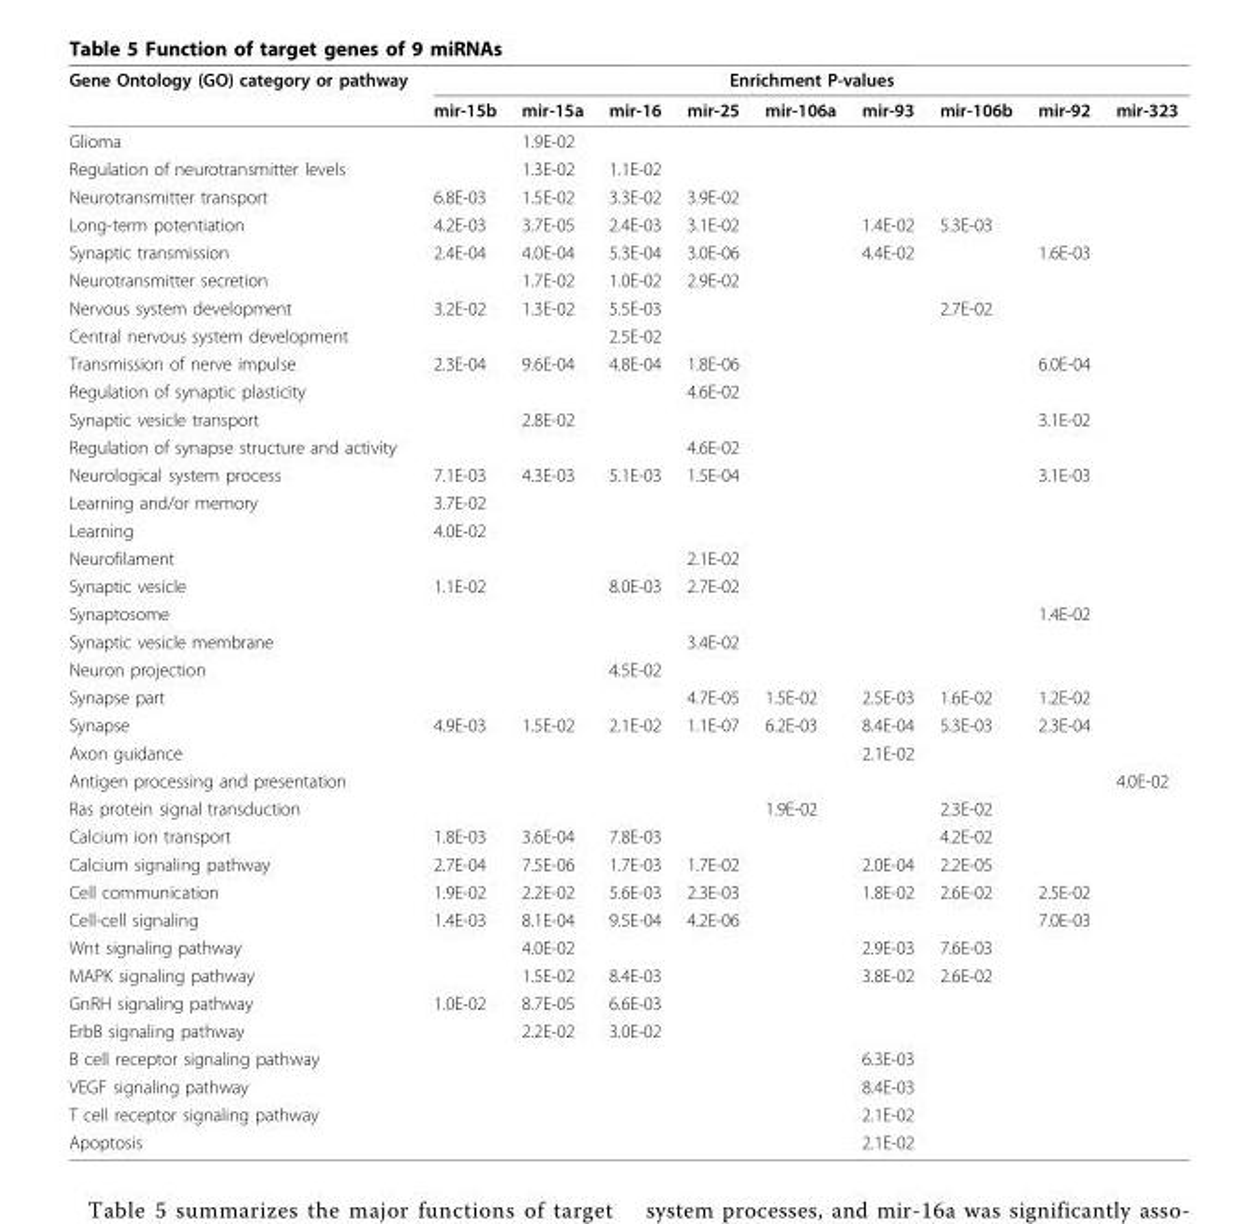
<table><thead><tr><td rowspan="2">Gene Ontology (GO) category or pathway</td><td colspan="9">Enrichment P-values</td></tr><tr><td>mir-15b</td><td>mir-15a</td><td>mir-16</td><td>mir-25</td><td>mir-106a</td><td>mir-93</td><td>mir-106b</td><td>mir-92</td><td>mir-323</td></tr></thead><tbody><tr><td>Glioma</td><td></td><td>1.9E-02</td><td></td><td></td><td></td><td></td><td></td><td></td><td></td></tr><tr><td>Regulation of neurotransmitter levels</td><td></td><td>1.3E-02</td><td>1.1E-02</td><td></td><td></td><td></td><td></td><td></td><td></td></tr><tr><td>Neurotransmitter transport</td><td>6.8E-03</td><td>1.5E-02</td><td>3.3E-02</td><td>3.9E-02</td><td></td><td></td><td></td><td></td><td></td></tr><tr><td>Long-term potentiation</td><td>4.2E-03</td><td>3.7E-05</td><td>2.4E-03</td><td>3.1E-02</td><td></td><td>1.4E-02</td><td>5.3E-03</td><td></td><td></td></tr><tr><td>Synaptic transmission</td><td>2.4E-04</td><td>4.0E-04</td><td>5.3E-04</td><td>3.0E-06</td><td></td><td>4.4E-02</td><td></td><td>1.6E-03</td><td></td></tr><tr><td>Neurotransmitter secretion</td><td></td><td>1.7E-02</td><td>1.0E-02</td><td>2.9E-02</td><td></td><td></td><td></td><td></td><td></td></tr><tr><td>Nervous system development</td><td>3.2E-02</td><td>1.3E-02</td><td>5.5E-03</td><td></td><td></td><td></td><td>2.7E-02</td><td></td><td></td></tr><tr><td>Central nervous system development</td><td></td><td></td><td>2.5E-02</td><td></td><td></td><td></td><td></td><td></td><td></td></tr><tr><td>Transmission of nerve impulse</td><td>2.3E-04</td><td>9.6E-04</td><td>4.8E-04</td><td>1.8E-06</td><td></td><td></td><td></td><td>6.0E-04</td><td></td></tr><tr><td>Regulation of synaptic plasticity</td><td></td><td></td><td></td><td>4.6E-02</td><td></td><td></td><td></td><td></td><td></td></tr><tr><td>Synaptic vesicle transport</td><td></td><td>2.8E-02</td><td></td><td></td><td></td><td></td><td></td><td>3.1E-02</td><td></td></tr><tr><td>Regulation of synapse structure and activity</td><td></td><td></td><td></td><td>4.6E-02</td><td></td><td></td><td></td><td></td><td></td></tr><tr><td>Neurological system process</td><td>7.1E-03</td><td>4.3E-03</td><td>5.1E-03</td><td>1.5E-04</td><td></td><td></td><td></td><td>3.1E-03</td><td></td></tr><tr><td>Learning and/or memory</td><td>3.7E-02</td><td></td><td></td><td></td><td></td><td></td><td></td><td></td><td></td></tr><tr><td>Learning</td><td>4.0E-02</td><td></td><td></td><td></td><td></td><td></td><td></td><td></td><td></td></tr><tr><td>Neurofilament</td><td></td><td></td><td></td><td>2.1E-02</td><td></td><td></td><td></td><td></td><td></td></tr><tr><td>Synaptic vesicle</td><td>1.1E-02</td><td></td><td>8.0E-03</td><td>2.7E-02</td><td></td><td></td><td></td><td></td><td></td></tr><tr><td>Synaptosome</td><td></td><td></td><td></td><td></td><td></td><td></td><td></td><td>1.4E-02</td><td></td></tr><tr><td>Synaptic vesicle membrane</td><td></td><td></td><td></td><td>3.4E-02</td><td></td><td></td><td></td><td></td><td></td></tr><tr><td>Neuron projection</td><td></td><td></td><td>4.5E-02</td><td></td><td></td><td></td><td></td><td></td><td></td></tr><tr><td>Synapse part</td><td></td><td></td><td></td><td>4.7E-05</td><td>1.5E-02</td><td>2.5E-03</td><td>1.6E-02</td><td>1.2E-02</td><td></td></tr><tr><td>Synapse</td><td>4.9E-03</td><td>1.5E-02</td><td>2.1E-02</td><td>1.1E-07</td><td>6.2E-03</td><td>8.4E-04</td><td>5.3E-03</td><td>2.3E-04</td><td></td></tr><tr><td>Axon guidance</td><td></td><td></td><td></td><td></td><td></td><td>2.1E-02</td><td></td><td></td><td></td></tr><tr><td>Antigen processing and presentation</td><td></td><td></td><td></td><td></td><td></td><td></td><td></td><td></td><td>4.0E-02</td></tr><tr><td>Ras protein signal transduction</td><td></td><td></td><td></td><td></td><td>1.9E-02</td><td></td><td>2.3E-02</td><td></td><td></td></tr><tr><td>Calcium ion transport</td><td>1.8E-03</td><td>3.6E-04</td><td>7.8E-03</td><td></td><td></td><td></td><td>4.2E-02</td><td></td><td></td></tr><tr><td>Calcium signaling pathway</td><td>2.7E-04</td><td>7.5E-06</td><td>1.7E-03</td><td>1.7E-02</td><td></td><td>2.0E-04</td><td>2.2E-05</td><td></td><td></td></tr><tr><td>Cell communication</td><td>1.9E-02</td><td>2.2E-02</td><td>5.6E-03</td><td>2.3E-03</td><td></td><td>1.8E-02</td><td>2.6E-02</td><td>2.5E-02</td><td></td></tr><tr><td>Cell-cell signaling</td><td>1.4E-03</td><td>8.1E-04</td><td>9.5E-04</td><td>4.2E-06</td><td></td><td></td><td></td><td>7.0E-03</td><td></td></tr><tr><td>Wnt signaling pathway</td><td></td><td>4.0E-02</td><td></td><td></td><td></td><td>2.9E-03</td><td>7.6E-03</td><td></td><td></td></tr><tr><td>MAPK signaling pathway</td><td></td><td>1.5E-02</td><td>8.4E-03</td><td></td><td></td><td>3.8E-02</td><td>2.6E-02</td><td></td><td></td></tr><tr><td>GnRH signaling pathway</td><td>1.0E-02</td><td>8.7E-05</td><td>6.6E-03</td><td></td><td></td><td></td><td></td><td></td><td></td></tr><tr><td>ErbB signaling pathway</td><td></td><td>2.2E-02</td><td>3.0E-02</td><td></td><td></td><td></td><td></td><td></td><td></td></tr><tr><td>B cell receptor signaling pathway</td><td></td><td></td><td></td><td></td><td></td><td>6.3E-03</td><td></td><td></td><td></td></tr><tr><td>VEGF signaling pathway</td><td></td><td></td><td></td><td></td><td></td><td>8.4E-03</td><td></td><td></td><td></td></tr><tr><td>T cell receptor signaling pathway</td><td></td><td></td><td></td><td></td><td></td><td>2.1E-02</td><td></td><td></td><td></td></tr><tr><td>Apoptosis</td><td></td><td></td><td></td><td></td><td></td><td>2.1E-02</td><td></td><td></td><td></td></tr></tbody></table>